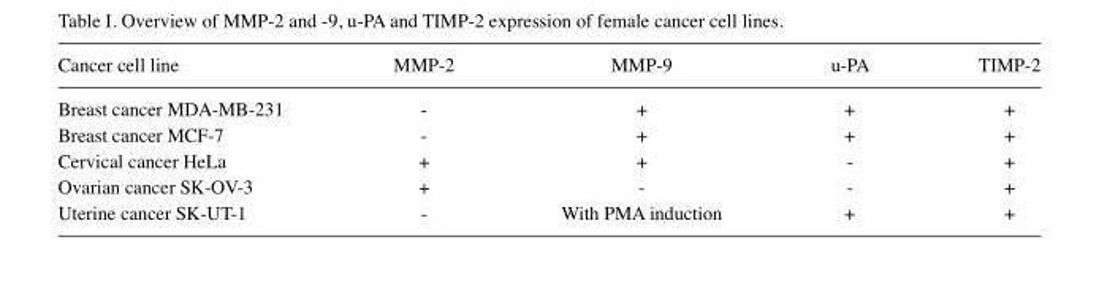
<table><thead><tr><td>Cancer cell line</td><td>MMP-2</td><td>MMP-9</td><td>u-PA</td><td>TIMP-2</td></tr></thead><tbody><tr><td>Breast cancer MDA-MB-231</td><td>-</td><td>+</td><td>+</td><td>+</td></tr><tr><td>Breast cancer MCF-7</td><td>-</td><td>+</td><td>+</td><td>+</td></tr><tr><td>Cervical cancer HeLa</td><td>+</td><td>+</td><td>-</td><td>+</td></tr><tr><td>Ovarian cancer SK-OV-3</td><td>+</td><td>-</td><td>-</td><td>+</td></tr><tr><td>Uterine cancer SK-UT-1</td><td>-</td><td>With PMA induction</td><td>+</td><td>+</td></tr></tbody></table>